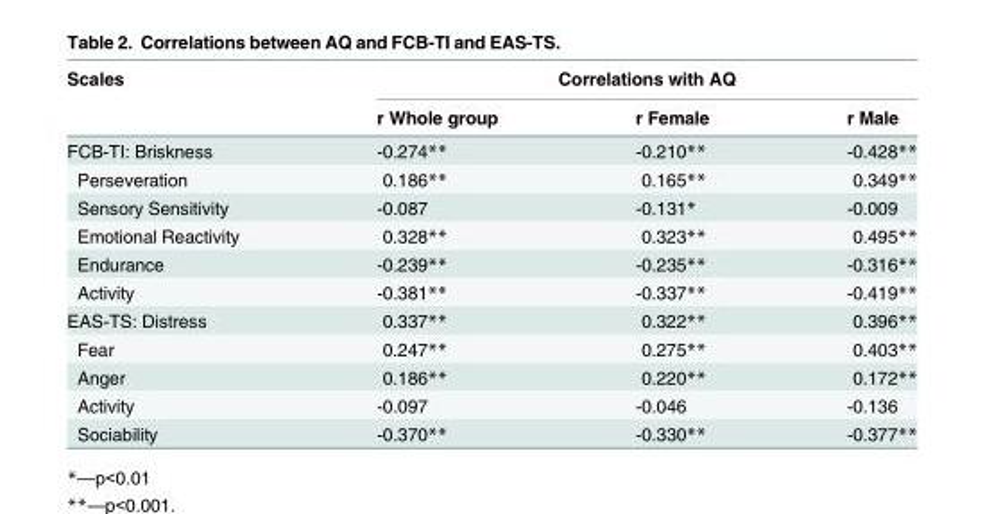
<table><thead><tr><td rowspan="2">Scales</td><td colspan="3">Correlations with AQ</td></tr><tr><td>r Whole group</td><td>r Female</td><td>r Male</td></tr></thead><tbody><tr><td>FCB-TI: Briskness</td><td>-0.274**</td><td>-0.210**</td><td>-0.428**</td></tr><tr><td>Perseveration</td><td>0.186**</td><td>0.165**</td><td>0.349**</td></tr><tr><td>Sensory Sensitivity</td><td>-0.087</td><td>-0.131*</td><td>-0.009</td></tr><tr><td>Emotional Reactivity</td><td>0.328**</td><td>0.323**</td><td>0.495**</td></tr><tr><td>Endurance</td><td>-0.239**</td><td>-0.235**</td><td>-0.316**</td></tr><tr><td>Activity</td><td>-0.381**</td><td>-0.337**</td><td>-0.419**</td></tr><tr><td>EAS-TS: Distress</td><td>0.337**</td><td>0.322**</td><td>0.396**</td></tr><tr><td>Fear</td><td>0.247**</td><td>0.275**</td><td>0.403**</td></tr><tr><td>Anger</td><td>0.186**</td><td>0.220**</td><td>0.172**</td></tr><tr><td>Activity</td><td>-0.097</td><td>-0.046</td><td>-0.136</td></tr><tr><td>Sociability</td><td>-0.370**</td><td>-0.330**</td><td>-0.377**</td></tr></tbody></table>